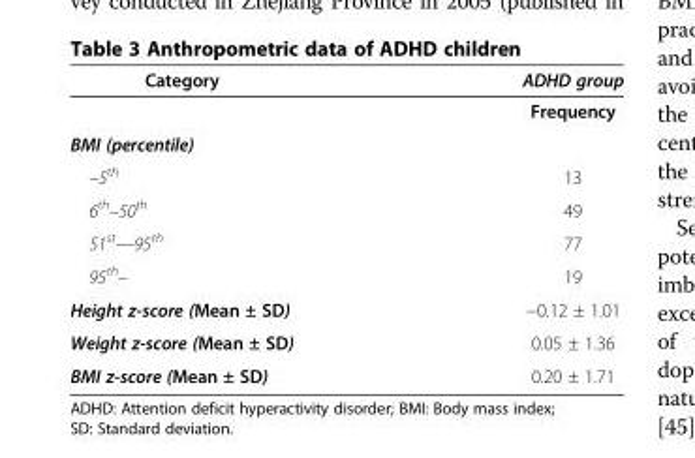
<table><thead><tr><td>Category</td><td>ADHD group</td></tr></thead><tbody><tr><td></td><td>Frequency</td></tr><tr><td colspan="2">BMI (percentile)</td></tr><tr><td>–5th</td><td>13</td></tr><tr><td>6th–50th</td><td>49</td></tr><tr><td>51<sup>st</sup>—95<sup>th</sup></td><td>77</td></tr><tr><td>95th–</td><td>19</td></tr><tr><td>Height z-score (Mean ± SD)</td><td>−0.12 ± 1.01</td></tr><tr><td>Weight z-score (Mean ± SD)</td><td>0.05 ± 1.36</td></tr><tr><td>BMI z-score (Mean ± SD)</td><td>0.20 ± 1.71</td></tr></tbody></table>